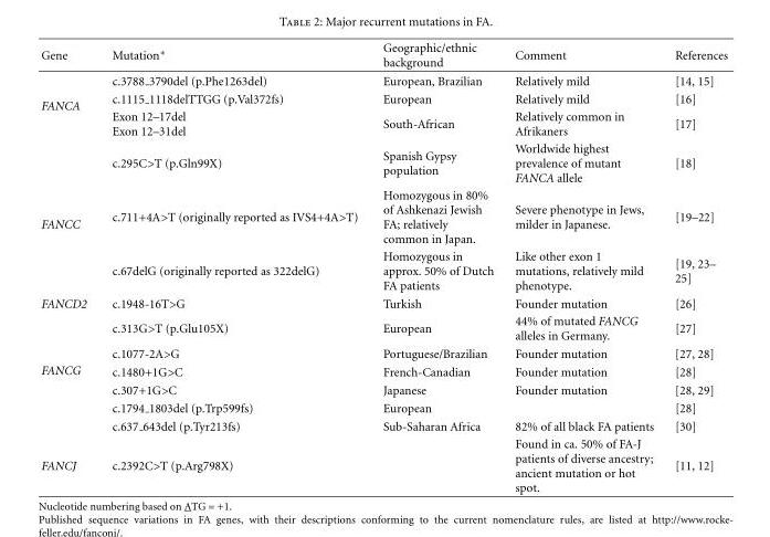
<table><thead><tr><td>Gene</td><td>Mutation∗</td><td>Geographic/ethnic background</td><td>Comment</td><td>References</td></tr></thead><tbody><tr><td rowspan="4">FANCA</td><td>c.3788 3790del (p.Phe1263del)</td><td>European, Brazilian</td><td>Relatively mild</td><td>[14, 15]</td></tr><tr><td>c.1115 1118delTTGG (p.Val372fs)</td><td>European</td><td>Relatively mild</td><td>[16]</td></tr><tr><td>Exon 12–17del Exon 12–31del</td><td>South-African</td><td>Relatively common in Afrikaners</td><td>[17]</td></tr><tr><td>c.295C&gt;T (p.Gln99X)</td><td>Spanish Gypsy population</td><td>Worldwide highest prevalence of mutant FANCA allele</td><td>[18]</td></tr><tr><td rowspan="2">FANCC</td><td>c.711+4A&gt;T (originally reported as IVS4+4A&gt;T)</td><td>Homozygous in 80% of Ashkenazi Jewish FA; relatively common in Japan.</td><td>Severe phenotype in Jews, milder in Japanese.</td><td>[19–22]</td></tr><tr><td>c.67delG (originally reported as 322delG)</td><td>Homozygous in approx. 50% of Dutch FA patients</td><td>Like other exon 1 mutations, relatively mild phenotype.</td><td>[19, 23– 25]</td></tr><tr><td>FANCD2</td><td>c.1948-16T&gt;G</td><td>Turkish</td><td>Founder mutation</td><td>[26]</td></tr><tr><td rowspan="6">FANCG</td><td>c.313G&gt;T (p.Glu105X)</td><td>European</td><td>44% of mutated FANCG alleles in Germany.</td><td>[27]</td></tr><tr><td>c.1077-2A&gt;G</td><td>Portuguese/Brazilian</td><td>Founder mutation</td><td>[27, 28]</td></tr><tr><td>c.1480+1G&gt;C</td><td>French-Canadian</td><td>Founder mutation</td><td>[28]</td></tr><tr><td>c.307+1G&gt;C</td><td>Japanese</td><td>Founder mutation</td><td>[28, 29]</td></tr><tr><td>c.1794 1803del (p.Trp599fs)</td><td>European</td><td></td><td>[28]</td></tr><tr><td>c.637 643del (p.Tyr213fs)</td><td>Sub-Saharan Africa</td><td>82% of all black FA patients</td><td>[30]</td></tr><tr><td>FANCJ</td><td>c.2392C&gt;T (p.Arg798X)</td><td></td><td>Found in ca. 50% of FA-J patients of diverse ancestry; ancient mutation or hot spot.</td><td>[11, 12]</td></tr></tbody></table>